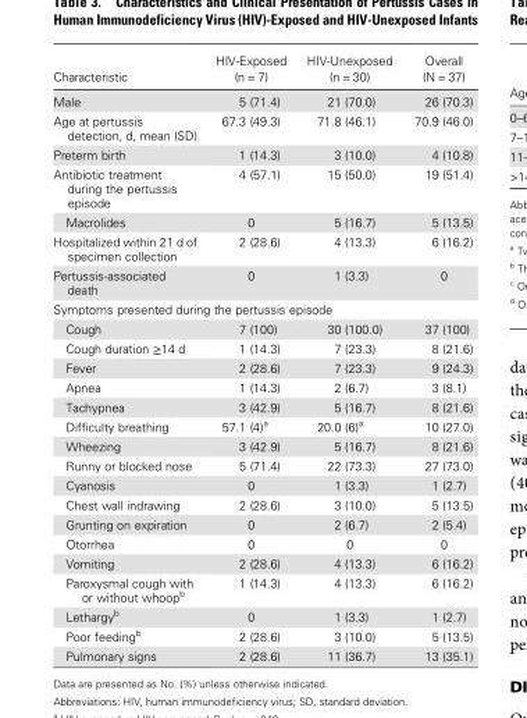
<table><thead><tr><td>Characteristic</td><td>HIV-Exposed (n = 7)</td><td>HIV-Unexposed (n = 30)</td><td>Overall (N = 37)</td></tr></thead><tbody><tr><td>Male</td><td>5 (71.4)</td><td>21 (70.0)</td><td>26 (70.3)</td></tr><tr><td>Age at pertussis detection, d, mean (SD)</td><td>67.3 (49.3)</td><td>71.8 (46.1)</td><td>70.9 (46.0)</td></tr><tr><td>Preterm birth</td><td>1 (14.3)</td><td>3 (10.0)</td><td>4 (10.8)</td></tr><tr><td>Antibiotic treatment during the pertussis episode</td><td>4 (57.1)</td><td>15 (50.0)</td><td>19 (51.4)</td></tr><tr><td>Macrolides</td><td>0</td><td>5 (16.7)</td><td>5 (13.5)</td></tr><tr><td>Hospitalized within 21 d of specimen collection</td><td>2 (28.6)</td><td>4 (13.3)</td><td>6 (16.2)</td></tr><tr><td>Pertussis-associated death</td><td>0</td><td>1 (3.3)</td><td>0</td></tr><tr><td colspan="4">Symptoms presented during the pertussis episode</td></tr><tr><td>Cough</td><td>7 (100)</td><td>30 (100.0)</td><td>37 (100)</td></tr><tr><td>Cough duration ≥14 d</td><td>1 (14.3)</td><td>7 (23.3)</td><td>8 (21.6)</td></tr><tr><td>Fever</td><td>2 (28.6)</td><td>7 (23.3)</td><td>9 (24.3)</td></tr><tr><td>Apnea</td><td>1 (14.3)</td><td>2 (6.7)</td><td>3 (8.1)</td></tr><tr><td>Tachypnea</td><td>3 (42.9)</td><td>5 (16.7)</td><td>8 (21.6)</td></tr><tr><td>Difficulty breathing</td><td>57.1 (4)<sup>a</sup></td><td>20.0 (6)<sup>a</sup></td><td>10 (27.0)</td></tr><tr><td>Wheezing</td><td>3 (42.9)</td><td>5 (16.7)</td><td>8 (21.6)</td></tr><tr><td>Runny or blocked nose</td><td>5 (71.4)</td><td>22 (73.3)</td><td>27 (73.0)</td></tr><tr><td>Cyanosis</td><td>0</td><td>1 (3.3)</td><td>1 (2.7)</td></tr><tr><td>Chest wall indrawing</td><td>2 (28.6)</td><td>3 (10.0)</td><td>5 (13.5)</td></tr><tr><td>Grunting on expiration</td><td>0</td><td>2 (6.7)</td><td>2 (5.4)</td></tr><tr><td>Otorrhea</td><td>0</td><td>0</td><td>0</td></tr><tr><td>Vomiting</td><td>2 (28.6)</td><td>4 (13.3)</td><td>6 (16.2)</td></tr><tr><td>Paroxysmal cough with or without whoop<sup>b</sup></td><td>1 (14.3)</td><td>4 (13.3)</td><td>6 (16.2)</td></tr><tr><td>Lethargy<sup>b</sup></td><td>0</td><td>1 (3.3)</td><td>1 (2.7)</td></tr><tr><td>Poor feeding<sup>b</sup></td><td>2 (28.6)</td><td>3 (10.0)</td><td>5 (13.5)</td></tr><tr><td>Pulmonary signs</td><td>2 (28.6)</td><td>11 (36.7)</td><td>13 (35.1)</td></tr></tbody></table>